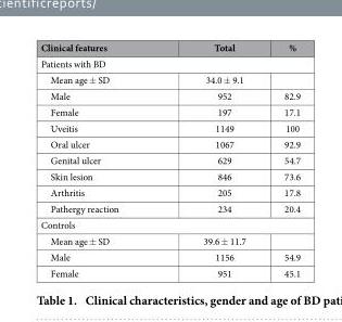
<table><thead><tr><td>Clinical features</td><td>Total</td><td>%</td></tr></thead><tbody><tr><td colspan="3">Patients with BD</td></tr><tr><td>Mean age ± SD</td><td>34.0 ± 9.1</td><td></td></tr><tr><td>Male</td><td>952</td><td>82.9</td></tr><tr><td>Female</td><td>197</td><td>17.1</td></tr><tr><td>Uveitis</td><td>1149</td><td>100</td></tr><tr><td>Oral ulcer</td><td>1067</td><td>92.9</td></tr><tr><td>Genital ulcer</td><td>629</td><td>54.7</td></tr><tr><td>Skin lesion</td><td>846</td><td>73.6</td></tr><tr><td>Arthritis</td><td>205</td><td>17.8</td></tr><tr><td>Pathergy reaction</td><td>234</td><td>20.4</td></tr><tr><td colspan="3">Controls</td></tr><tr><td>Mean age ± SD</td><td>39.6 ± 11.7</td><td></td></tr><tr><td>Male</td><td>1156</td><td>54.9</td></tr><tr><td>Female</td><td>951</td><td>45.1</td></tr></tbody></table>